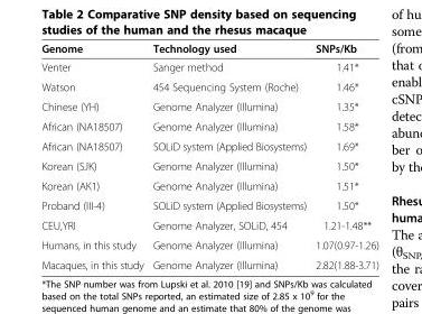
<table><thead><tr><td>Genome</td><td>Technology used</td><td>SNPs/Kb</td></tr></thead><tbody><tr><td>Venter</td><td>Sanger method</td><td>1.41*</td></tr><tr><td>Watson</td><td>454 Sequencing System (Roche)</td><td>1.46*</td></tr><tr><td>Chinese (YH)</td><td>Genome Analyzer (Illumina)</td><td>1.35*</td></tr><tr><td>African (NA18507)</td><td>Genome Analyzer (Illumina)</td><td>1.58*</td></tr><tr><td>African (NA18507)</td><td>SOLiD system (Applied Biosystems)</td><td>1.69*</td></tr><tr><td>Korean (SJK)</td><td>Genome Analyzer (Illumina)</td><td>1.50*</td></tr><tr><td>Korean (AK1)</td><td>Genome Analyzer (Illumina)</td><td>1.51*</td></tr><tr><td>Proband (III-4)</td><td>SOLiD system (Applied Biosystems)</td><td>1.50*</td></tr><tr><td>CEU,YRI</td><td>Genome Analyzer, SOLiD, 454</td><td>1.21-1.48**</td></tr><tr><td>Humans, in this study</td><td>Genome Analyzer (Illumina)</td><td>1.07(0.97-1.26)</td></tr><tr><td>Macaques, in this study</td><td>Genome Analyzer (Illumina)</td><td>2.82(1.88-3.71)</td></tr></tbody></table>